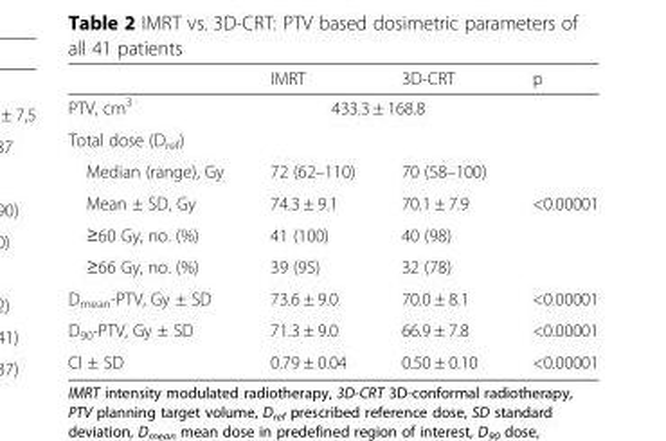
<table><thead><tr><td></td><td>IMRT</td><td>3D-CRT</td><td>p</td></tr></thead><tbody><tr><td>PTV, cm<sup>3</sup></td><td colspan="2">433.3 ± 168.8</td><td></td></tr><tr><td colspan="4">Total dose (D<sub>ref</sub>)</td></tr><tr><td>Median (range), Gy</td><td>72 (62–110)</td><td>70 (58–100)</td><td></td></tr><tr><td>Mean ± SD, Gy</td><td>74.3 ± 9.1</td><td>70.1 ± 7.9</td><td>&lt;0.00001</td></tr><tr><td>≥60 Gy, no. (%)</td><td>41 (100)</td><td>40 (98)</td><td></td></tr><tr><td>≥66 Gy, no. (%)</td><td>39 (95)</td><td>32 (78)</td><td></td></tr><tr><td>D<sub>mean</sub>-PTV, Gy ± SD</td><td>73.6 ± 9.0</td><td>70.0 ± 8.1</td><td>&lt;0.00001</td></tr><tr><td>D<sub>90</sub>-PTV, Gy ± SD</td><td>71.3 ± 9.0</td><td>66.9 ± 7.8</td><td>&lt;0.00001</td></tr><tr><td>CI ± SD</td><td>0.79 ± 0.04</td><td>0.50 ± 0.10</td><td>&lt;0.00001</td></tr></tbody></table>